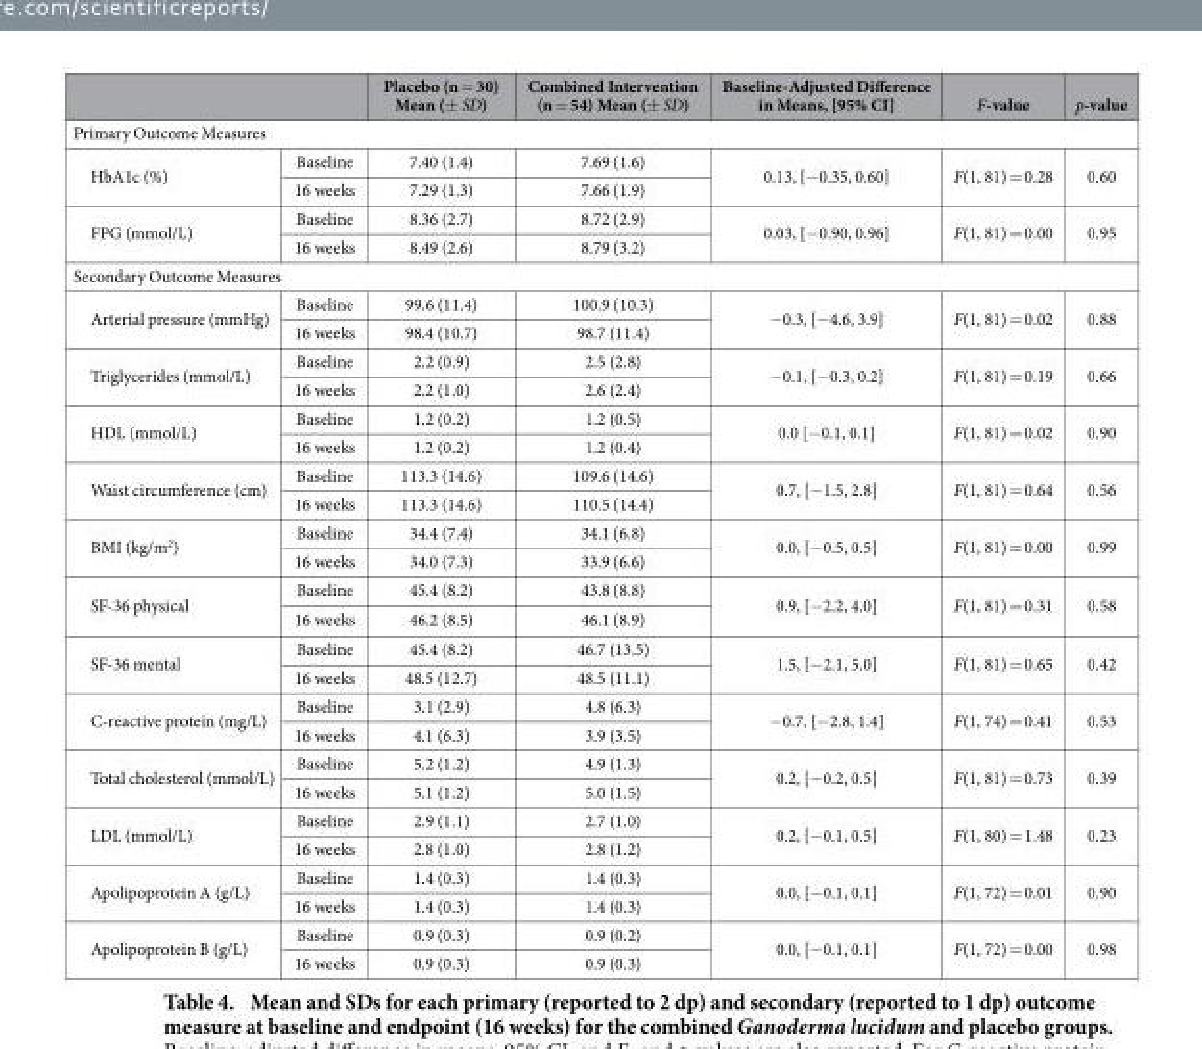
<table><thead><tr><td></td><td></td><td>Placebo (n = 30) Mean (± SD)</td><td>Combined Intervention (n = 54) Mean (± SD)</td><td>Baseline-Adjusted Difference in Means, [95% CI]</td><td>F-value</td><td>p-value</td></tr></thead><tbody><tr><td colspan="7">Primary Outcome Measures</td></tr><tr><td rowspan="2">HbA1c (%)</td><td>Baseline</td><td>7.40 (1.4)</td><td>7.69 (1.6)</td><td rowspan="2">0.13, [− 0.35, 0.60]</td><td rowspan="2">F(1, 81) = 0.28</td><td rowspan="2">0.60</td></tr><tr><td>16 weeks</td><td>7.29 (1.3)</td><td>7.66 (1.9)</td></tr><tr><td rowspan="2">FPG (mmol/L)</td><td>Baseline</td><td>8.36 (2.7)</td><td>8.72 (2.9)</td><td rowspan="2">0.03, [− 0.90, 0.96]</td><td rowspan="2">F(1, 81) = 0.00</td><td rowspan="2">0.95</td></tr><tr><td>16 weeks</td><td>8.49 (2.6)</td><td>8.79 (3.2)</td></tr><tr><td colspan="7">Secondary Outcome Measures</td></tr><tr><td rowspan="2">Arterial pressure (mmHg)</td><td>Baseline</td><td>99.6 (11.4)</td><td>100.9 (10.3)</td><td rowspan="2">− 0.3, [− 4.6, 3.9]</td><td rowspan="2">F(1, 81) = 0.02</td><td rowspan="2">0.88</td></tr><tr><td>16 weeks</td><td>98.4 (10.7)</td><td>98.7 (11.4)</td></tr><tr><td rowspan="2">Triglycerides (mmol/L)</td><td>Baseline</td><td>2.2 (0.9)</td><td>2.5 (2.8)</td><td rowspan="2">− 0.1, [− 0.3, 0.2]</td><td rowspan="2">F(1, 81) = 0.19</td><td rowspan="2">0.66</td></tr><tr><td>16 weeks</td><td>2.2 (1.0)</td><td>2.6 (2.4)</td></tr><tr><td rowspan="2">HDL (mmol/L)</td><td>Baseline</td><td>1.2 (0.2)</td><td>1.2 (0.5)</td><td rowspan="2">0.0 [− 0.1, 0.1]</td><td rowspan="2">F(1, 81) = 0.02</td><td rowspan="2">0.90</td></tr><tr><td>16 weeks</td><td>1.2 (0.2)</td><td>1.2 (0.4)</td></tr><tr><td rowspan="2">Waist circumference (cm)</td><td>Baseline</td><td>113.3 (14.6)</td><td>109.6 (14.6)</td><td rowspan="2">0.7, [− 1.5, 2.8]</td><td rowspan="2">F(1, 81) = 0.64</td><td rowspan="2">0.56</td></tr><tr><td>16 weeks</td><td>113.3 (14.6)</td><td>110.5 (14.4)</td></tr><tr><td rowspan="2">BMI (kg/m<sup>2</sup>)</td><td>Baseline</td><td>34.4 (7.4)</td><td>34.1 (6.8)</td><td rowspan="2">0.0, [− 0.5, 0.5]</td><td rowspan="2">F(1, 81) = 0.00</td><td rowspan="2">0.99</td></tr><tr><td>16 weeks</td><td>34.0 (7.3)</td><td>33.9 (6.6)</td></tr><tr><td rowspan="2">SF-36 physical</td><td>Baseline</td><td>45.4 (8.2)</td><td>43.8 (8.8)</td><td rowspan="2">0.9, [− 2.2, 4.0]</td><td rowspan="2">F(1, 81) = 0.31</td><td rowspan="2">0.58</td></tr><tr><td>16 weeks</td><td>46.2 (8.5)</td><td>46.1 (8.9)</td></tr><tr><td rowspan="2">SF-36 mental</td><td>Baseline</td><td>45.4 (8.2)</td><td>46.7 (13.5)</td><td rowspan="2">1.5, [− 2.1, 5.0]</td><td rowspan="2">F(1, 81) = 0.65</td><td rowspan="2">0.42</td></tr><tr><td>16 weeks</td><td>48.5 (12.7)</td><td>48.5 (11.1)</td></tr><tr><td rowspan="2">C-reactive protein (mg/L)</td><td>Baseline</td><td>3.1 (2.9)</td><td>4.8 (6.3)</td><td rowspan="2">− 0.7, [− 2.8, 1.4]</td><td rowspan="2">F(1, 74) = 0.41</td><td rowspan="2">0.53</td></tr><tr><td>16 weeks</td><td>4.1 (6.3)</td><td>3.9 (3.5)</td></tr><tr><td rowspan="2">Total cholesterol (mmol/L)</td><td>Baseline</td><td>5.2 (1.2)</td><td>4.9 (1.3)</td><td rowspan="2">0.2, [− 0.2, 0.5]</td><td rowspan="2">F(1, 81) = 0.73</td><td rowspan="2">0.39</td></tr><tr><td>16 weeks</td><td>5.1 (1.2)</td><td>5.0 (1.5)</td></tr><tr><td rowspan="2">LDL (mmol/L)</td><td>Baseline</td><td>2.9 (1.1)</td><td>2.7 (1.0)</td><td rowspan="2">0.2, [− 0.1, 0.5]</td><td rowspan="2">F(1, 80) = 1.48</td><td rowspan="2">0.23</td></tr><tr><td>16 weeks</td><td>2.8 (1.0)</td><td>2.8 (1.2)</td></tr><tr><td rowspan="2">Apolipoprotein A (g/L)</td><td>Baseline</td><td>1.4 (0.3)</td><td>1.4 (0.3)</td><td rowspan="2">0.0, [− 0.1, 0.1]</td><td rowspan="2">F(1, 72) = 0.01</td><td rowspan="2">0.90</td></tr><tr><td>16 weeks</td><td>1.4 (0.3)</td><td>1.4 (0.3)</td></tr><tr><td rowspan="2">Apolipoprotein B (g/L)</td><td>Baseline</td><td>0.9 (0.3)</td><td>0.9 (0.2)</td><td rowspan="2">0.0, [− 0.1, 0.1]</td><td rowspan="2">F(1, 72) = 0.00</td><td rowspan="2">0.98</td></tr><tr><td>16 weeks</td><td>0.9 (0.3)</td><td>0.9 (0.3)</td></tr></tbody></table>